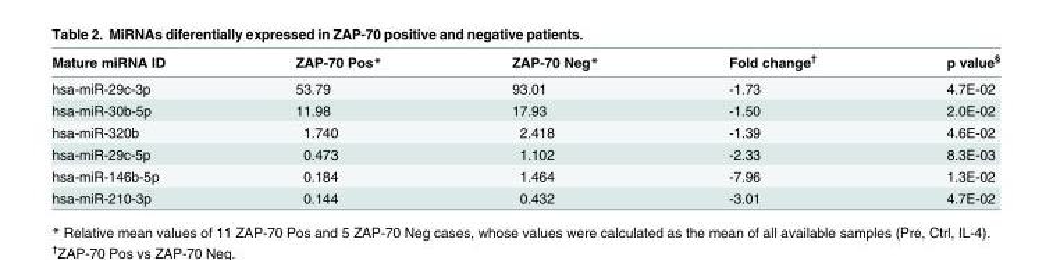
<table><thead><tr><td>Mature miRNA ID</td><td>ZAP-70 Pos*</td><td>ZAP-70 Neg*</td><td>Fold change<sup>†</sup></td><td>p value<sup>§</sup></td></tr></thead><tbody><tr><td>hsa-miR-29c-3p</td><td>53.79</td><td>93.01</td><td>-1.73</td><td>4.7E-02</td></tr><tr><td>hsa-miR-30b-5p</td><td>11.98</td><td>17.93</td><td>-1.50</td><td>2.0E-02</td></tr><tr><td>hsa-miR-320b</td><td>1.740</td><td>2.418</td><td>-1.39</td><td>4.6E-02</td></tr><tr><td>hsa-miR-29c-5p</td><td>0.473</td><td>1.102</td><td>-2.33</td><td>8.3E-03</td></tr><tr><td>hsa-miR-146b-5p</td><td>0.184</td><td>1.464</td><td>-7.96</td><td>1.3E-02</td></tr><tr><td>hsa-miR-210-3p</td><td>0.144</td><td>0.432</td><td>-3.01</td><td>4.7E-02</td></tr></tbody></table>